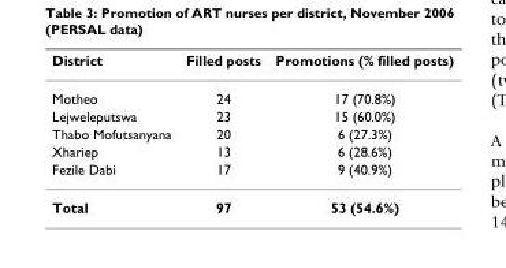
<table><thead><tr><td>District</td><td>Filled posts</td><td>Promotions (% filled posts)</td></tr></thead><tbody><tr><td>Motheo</td><td>24</td><td>17 (70.8%)</td></tr><tr><td>Lejweleputswa</td><td>23</td><td>15 (60.0%)</td></tr><tr><td>Thabo Mofutsanyana</td><td>20</td><td>6 (27.3%)</td></tr><tr><td>Xhariep</td><td>13</td><td>6 (28.6%)</td></tr><tr><td>Fezile Dabi</td><td>17</td><td>9 (40.9%)</td></tr><tr><td>Total</td><td>97</td><td>53 (54.6%)</td></tr></tbody></table>